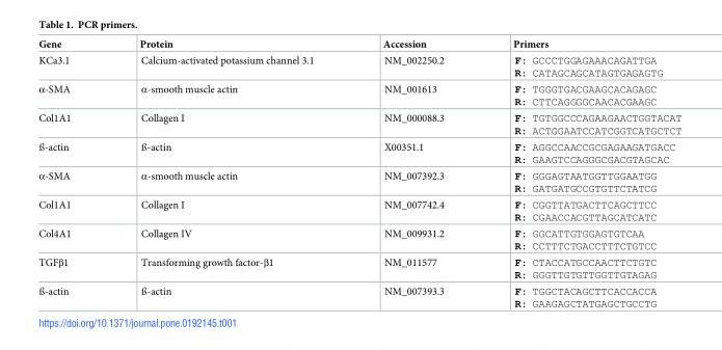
<table><thead><tr><td>Gene</td><td>Protein</td><td>Accession</td><td>Primers</td></tr></thead><tbody><tr><td>KCa3.1</td><td>Calcium-activated potassium channel 3.1</td><td>NM_002250.2</td><td>F: GCCCTGGAGAAACAGATTGA R: CATAGCAGCATAGTGAGAGTG</td></tr><tr><td>α-SMA</td><td>α-smooth muscle actin</td><td>NM_001613</td><td>F: TGGGTGACGAAGCACAGAGC R: CTTCAGGGGCAACACGAAGC</td></tr><tr><td>Col1A1</td><td>Collagen I</td><td>NM_000088.3</td><td>F: TGTGGCCCAGAAGAACTGGTACAT R: ACTGGAATCCATCGGTCATGCTCT</td></tr><tr><td>ß-actin</td><td>ß-actin</td><td>X00351.1</td><td>F: AGGCCAACCGCGAGAAGATGACC R: GAAGTCCAGGGCGACGTAGCAC</td></tr><tr><td>α-SMA</td><td>α-smooth muscle actin</td><td>NM_007392.3</td><td>F: GGGAGTAATGGTTGGAATGG R: GATGATGCCGTGTTCTATCG</td></tr><tr><td>Col1A1</td><td>Collagen I</td><td>NM_007742.4</td><td>F: CGGTTATGACTTCAGCTTCC R: CGAACCACGTTAGCATCATC</td></tr><tr><td>Col4A1</td><td>Collagen IV</td><td>NM_009931.2</td><td>F: GGCATTGTGGAGTGTCAA R: CCTTTCTGACCTTTCTGTCC</td></tr><tr><td>TGFβ1</td><td>Transforming growth factor-β1</td><td>NM_011577</td><td>F: CTACCATGCCAACTTCTGTC R: GGGTTGTGTTGGTTGTAGAG</td></tr><tr><td>ß-actin</td><td>ß-actin</td><td>NM_007393.3</td><td>F: TGGCTACAGCTTCACCACCA R: GAAGAGCTATGAGCTGCCTG</td></tr></tbody></table>